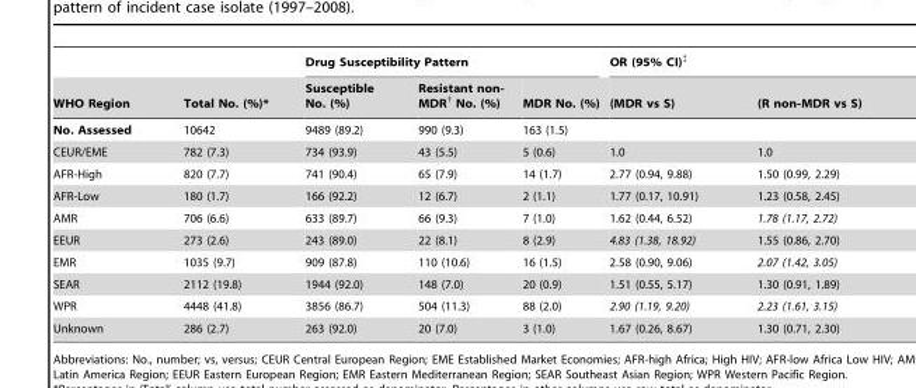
<table><thead><tr><td rowspan="2">WHO Region</td><td rowspan="2">Total No. (%)*</td><td colspan="3">Drug Susceptibility Pattern</td><td colspan="2">OR (95% CI)‡</td></tr><tr><td>Susceptible No. (%)</td><td>Resistant non- MDR† No. (%)</td><td>MDR No. (%)</td><td>(MDR vs S)</td><td>(R non-MDR vs S)</td></tr></thead><tbody><tr><td>No. Assessed</td><td>10642</td><td>9489 (89.2)</td><td>990 (9.3)</td><td>163 (1.5)</td><td></td><td></td></tr><tr><td>CEUR/EME</td><td>782 (7.3)</td><td>734 (93.9)</td><td>43 (5.5)</td><td>5 (0.6)</td><td>1.0</td><td>1.0</td></tr><tr><td>AFR-High</td><td>820 (7.7)</td><td>741 (90.4)</td><td>65 (7.9)</td><td>14 (1.7)</td><td>2.77 (0.94, 9.88)</td><td>1.50 (0.99, 2.29)</td></tr><tr><td>AFR-Low</td><td>180 (1.7)</td><td>166 (92.2)</td><td>12 (6.7)</td><td>2 (1.1)</td><td>1.77 (0.17, 10.91)</td><td>1.23 (0.58, 2.45)</td></tr><tr><td>AMR</td><td>706 (6.6)</td><td>633 (89.7)</td><td>66 (9.3)</td><td>7 (1.0)</td><td>1.62 (0.44, 6.52)</td><td>1.78 (1.17, 2.72)</td></tr><tr><td>EEUR</td><td>273 (2.6)</td><td>243 (89.0)</td><td>22 (8.1)</td><td>8 (2.9)</td><td>4.83 (1.38, 18.92)</td><td>1.55 (0.86, 2.70)</td></tr><tr><td>EMR</td><td>1035 (9.7)</td><td>909 (87.8)</td><td>110 (10.6)</td><td>16 (1.5)</td><td>2.58 (0.90, 9.06)</td><td>2.07 (1.42, 3.05)</td></tr><tr><td>SEAR</td><td>2112 (19.8)</td><td>1944 (92.0)</td><td>148 (7.0)</td><td>20 (0.9)</td><td>1.51 (0.55, 5.17)</td><td>1.30 (0.91, 1.89)</td></tr><tr><td>WPR</td><td>4448 (41.8)</td><td>3856 (86.7)</td><td>504 (11.3)</td><td>88 (2.0)</td><td>2.90 (1.19, 9.20)</td><td>2.23 (1.61, 3.15)</td></tr><tr><td>Unknown</td><td>286 (2.7)</td><td>263 (92.0)</td><td>20 (7.0)</td><td>3 (1.0)</td><td>1.67 (0.26, 8.67)</td><td>1.30 (0.71, 2.30)</td></tr></tbody></table>